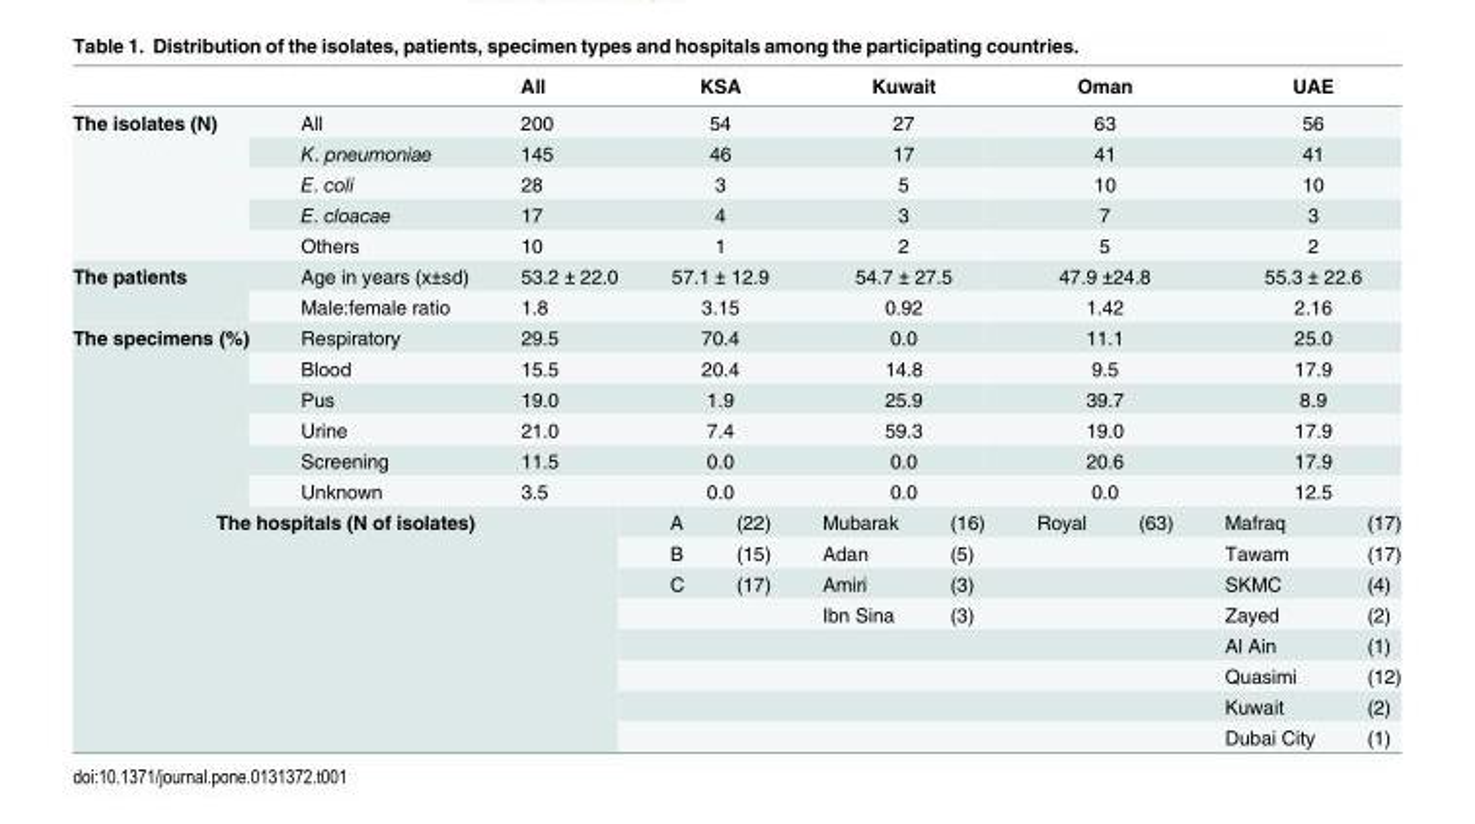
<table><thead><tr><td></td><td></td><td>All</td><td colspan="2">KSA</td><td colspan="2">Kuwait</td><td colspan="2">Oman</td><td colspan="2">UAE</td></tr></thead><tbody><tr><td rowspan="5">The isolates (N)</td><td>All</td><td>200</td><td colspan="2">54</td><td colspan="2">27</td><td colspan="2">63</td><td colspan="2">56</td></tr><tr><td>K. pneumoniae</td><td>145</td><td colspan="2">46</td><td colspan="2">17</td><td colspan="2">41</td><td colspan="2">41</td></tr><tr><td>E. coli</td><td>28</td><td colspan="2">3</td><td colspan="2">5</td><td colspan="2">10</td><td colspan="2">10</td></tr><tr><td>E. cloacae</td><td>17</td><td colspan="2">4</td><td colspan="2">3</td><td colspan="2">7</td><td colspan="2">3</td></tr><tr><td>Others</td><td>10</td><td colspan="2">1</td><td colspan="2">2</td><td colspan="2">5</td><td colspan="2">2</td></tr><tr><td rowspan="2">The patients</td><td>Age in years (x±sd)</td><td>53.2 ± 22.0</td><td colspan="2">57.1 ± 12.9</td><td colspan="2">54.7 ± 27.5</td><td colspan="2">47.9 ±24.8</td><td colspan="2">55.3 ± 22.6</td></tr><tr><td>Male:female ratio</td><td>1.8</td><td colspan="2">3.15</td><td colspan="2">0.92</td><td colspan="2">1.42</td><td colspan="2">2.16</td></tr><tr><td rowspan="6">The specimens (%)</td><td>Respiratory</td><td>29.5</td><td colspan="2">70.4</td><td colspan="2">0.0</td><td colspan="2">11.1</td><td colspan="2">25.0</td></tr><tr><td>Blood</td><td>15.5</td><td colspan="2">20.4</td><td colspan="2">14.8</td><td colspan="2">9.5</td><td colspan="2">17.9</td></tr><tr><td>Pus</td><td>19.0</td><td colspan="2">1.9</td><td colspan="2">25.9</td><td colspan="2">39.7</td><td colspan="2">8.9</td></tr><tr><td>Urine</td><td>21.0</td><td colspan="2">7.4</td><td colspan="2">59.3</td><td colspan="2">19.0</td><td colspan="2">17.9</td></tr><tr><td>Screening</td><td>11.5</td><td colspan="2">0.0</td><td colspan="2">0.0</td><td colspan="2">20.6</td><td colspan="2">17.9</td></tr><tr><td>Unknown</td><td>3.5</td><td colspan="2">0.0</td><td colspan="2">0.0</td><td colspan="2">0.0</td><td colspan="2">12.5</td></tr><tr><td rowspan="8" colspan="3">The hospitals (N of isolates)</td><td>A</td><td>(22)</td><td>Mubarak</td><td>(16)</td><td>Royal</td><td>(63)</td><td>Mafraq</td><td>(17)</td></tr><tr><td>B</td><td>(15)</td><td>Adan</td><td>(5)</td><td></td><td></td><td>Tawam</td><td>(17)</td></tr><tr><td>C</td><td>(17)</td><td>Amiri</td><td>(3)</td><td></td><td></td><td>SKMC</td><td>(4)</td></tr><tr><td></td><td></td><td>Ibn Sina</td><td>(3)</td><td></td><td></td><td>Zayed</td><td>(2)</td></tr><tr><td></td><td></td><td></td><td></td><td></td><td></td><td>Al Ain</td><td>(1)</td></tr><tr><td></td><td></td><td></td><td></td><td></td><td></td><td>Quasimi</td><td>(12)</td></tr><tr><td></td><td></td><td></td><td></td><td></td><td></td><td>Kuwait</td><td>(2)</td></tr><tr><td></td><td></td><td></td><td></td><td></td><td></td><td>Dubai City</td><td>(1)</td></tr></tbody></table>